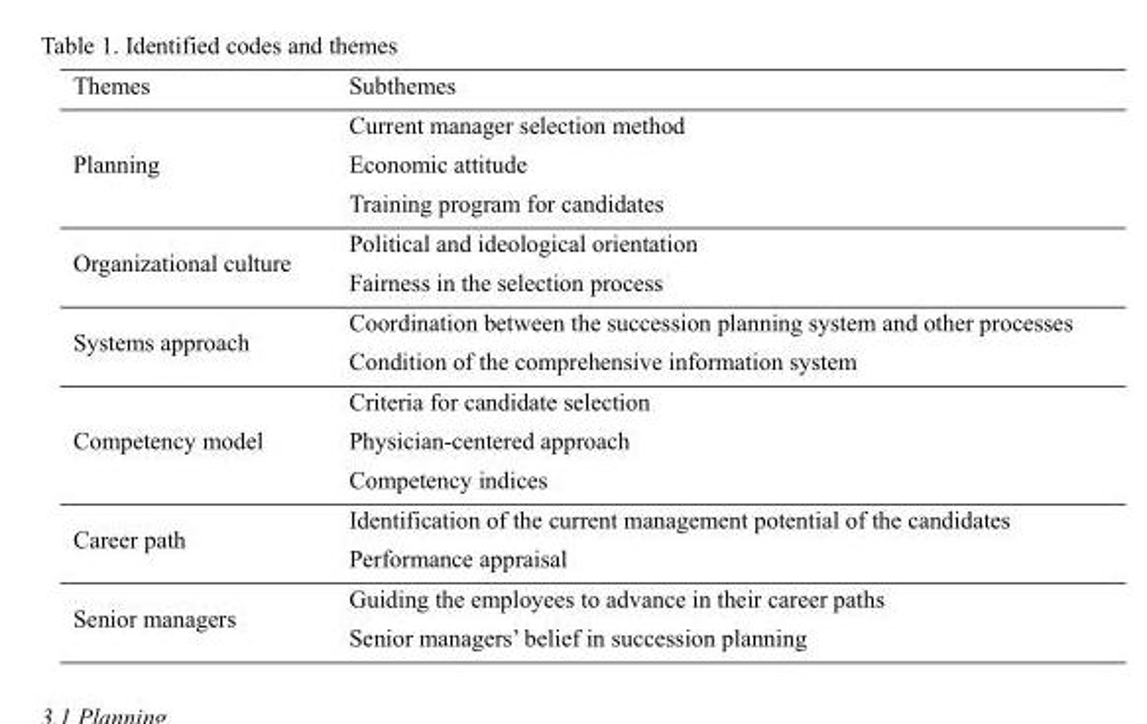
<table><thead><tr><td>Themes</td><td>Subthemes</td></tr></thead><tbody><tr><td rowspan="3">Planning</td><td>Current manager selection method</td></tr><tr><td>Economic attitude</td></tr><tr><td>Training program for candidates</td></tr><tr><td rowspan="2">Organizational culture</td><td>Political and ideological orientation</td></tr><tr><td>Fairness in the selection process</td></tr><tr><td rowspan="2">Systems approach</td><td>Coordination between the succession planning system and other processes</td></tr><tr><td>Condition of the comprehensive information system</td></tr><tr><td rowspan="3">Competency model</td><td>Criteria for candidate selection</td></tr><tr><td>Physician-centered approach</td></tr><tr><td>Competency indices</td></tr><tr><td rowspan="2">Career path</td><td>Identification of the current management potential of the candidates</td></tr><tr><td>Performance appraisal</td></tr><tr><td rowspan="2">Senior managers</td><td>Guiding the employees to advance in their career paths</td></tr><tr><td>Senior managers’ belief in succession planning</td></tr></tbody></table>